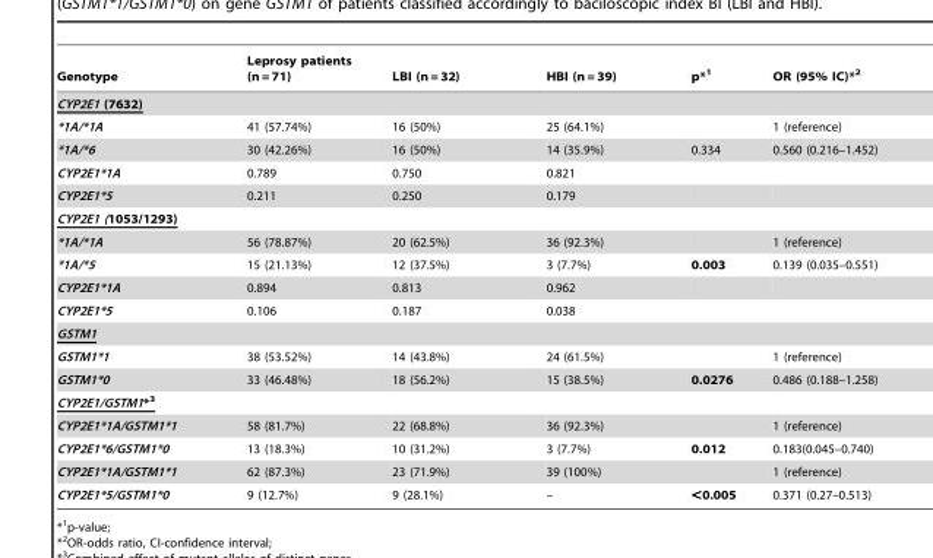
<table><thead><tr><td>Genotype</td><td>Leprosy patients (n = 71)</td><td>LBI (n = 32)</td><td>HBI (n = 39)</td><td>p*<sup>1</sup></td><td>OR (95% IC)*<sup>2</sup></td></tr></thead><tbody><tr><td colspan="6">CYP2E1 (7632)</td></tr><tr><td>*1A/*1A</td><td>41 (57.74%)</td><td>16 (50%)</td><td>25 (64.1%)</td><td></td><td>1 (reference)</td></tr><tr><td>*1A/*6</td><td>30 (42.26%)</td><td>16 (50%)</td><td>14 (35.9%)</td><td>0.334</td><td>0.560 (0.216–1.452)</td></tr><tr><td>CYP2E1*1A</td><td>0.789</td><td>0.750</td><td>0.821</td><td></td><td></td></tr><tr><td>CYP2E1*5</td><td>0.211</td><td>0.250</td><td>0.179</td><td></td><td></td></tr><tr><td colspan="6">CYP2E1 (1053/1293)</td></tr><tr><td>*1A/*1A</td><td>56 (78.87%)</td><td>20 (62.5%)</td><td>36 (92.3%)</td><td></td><td>1 (reference)</td></tr><tr><td>*1A/*5</td><td>15 (21.13%)</td><td>12 (37.5%)</td><td>3 (7.7%)</td><td>0.003</td><td>0.139 (0.035–0.551)</td></tr><tr><td>CYP2E1*1A</td><td>0.894</td><td>0.813</td><td>0.962</td><td></td><td></td></tr><tr><td>CYP2E1*5</td><td>0.106</td><td>0.187</td><td>0.038</td><td></td><td></td></tr><tr><td colspan="6">GSTM1</td></tr><tr><td>GSTM1*1</td><td>38 (53.52%)</td><td>14 (43.8%)</td><td>24 (61.5%)</td><td></td><td>1 (reference)</td></tr><tr><td>GSTM1*0</td><td>33 (46.48%)</td><td>18 (56.2%)</td><td>15 (38.5%)</td><td>0.0276</td><td>0.486 (0.188–1.258)</td></tr><tr><td colspan="6">CYP2E1/GSTM1*<sup>3</sup></td></tr><tr><td>CYP2E1*1A/GSTM1*1</td><td>58 (81.7%)</td><td>22 (68.8%)</td><td>36 (92.3%)</td><td></td><td>1 (reference)</td></tr><tr><td>CYP2E1*6/GSTM1*0</td><td>13 (18.3%)</td><td>10 (31.2%)</td><td>3 (7.7%)</td><td>0.012</td><td>0.183(0.045–0.740)</td></tr><tr><td>CYP2E1*1A/GSTM1*1</td><td>62 (87.3%)</td><td>23 (71.9%)</td><td>39 (100%)</td><td></td><td>1 (reference)</td></tr><tr><td>CYP2E1*5/GSTM1*0</td><td>9 (12.7%)</td><td>9 (28.1%)</td><td>–</td><td>&lt;0.005</td><td>0.371 (0.27–0.513)</td></tr></tbody></table>